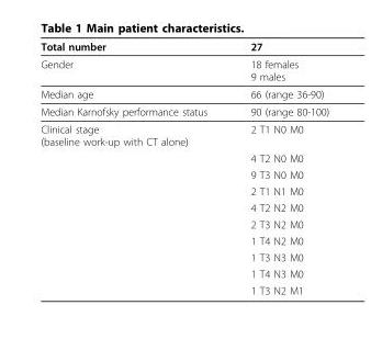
<table><thead><tr><td>Total number</td><td>27</td></tr></thead><tbody><tr><td>Gender</td><td>18 females 9 males</td></tr><tr><td>Median age</td><td>66 (range 36-90)</td></tr><tr><td>Median Karnofsky performance status</td><td>90 (range 80-100)</td></tr><tr><td rowspan="10">Clinical stage (baseline work-up with CT alone)</td><td>2 T1 N0 M0</td></tr><tr><td>4 T2 N0 M0</td></tr><tr><td>9 T3 N0 M0</td></tr><tr><td>2 T1 N1 M0</td></tr><tr><td>4 T2 N2 M0</td></tr><tr><td>2 T3 N2 M0</td></tr><tr><td>1 T4 N2 M0</td></tr><tr><td>1 T3 N3 M0</td></tr><tr><td>1 T4 N3 M0</td></tr><tr><td>1 T3 N2 M1</td></tr></tbody></table>